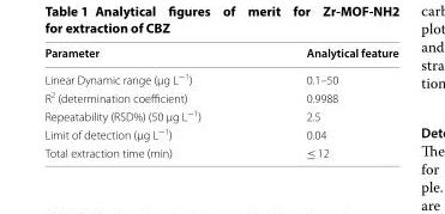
<table><thead><tr><td>Parameter</td><td>Analytical feature</td></tr></thead><tbody><tr><td>Linear Dynamic range (μg L<sup>−1</sup>)</td><td>0.1–50</td></tr><tr><td>R<sup>2</sup> (determination coefficient)</td><td>0.9988</td></tr><tr><td>Repeatability (RSD%) (50 μg L<sup>−1</sup>)</td><td>2.5</td></tr><tr><td>Limit of detection (µg L<sup>−1</sup>)</td><td>0.04</td></tr><tr><td>Total extraction time (min)</td><td>≤ 12</td></tr></tbody></table>